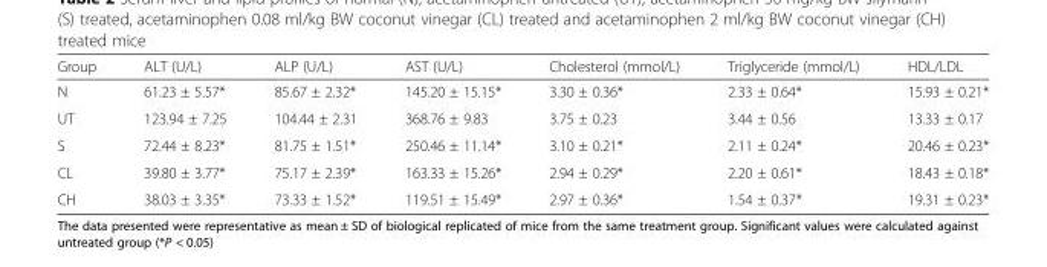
<table><thead><tr><td>Group</td><td>ALT (U/L)</td><td>ALP (U/L)</td><td>AST (U/L)</td><td>Cholesterol (mmol/L)</td><td>Triglyceride (mmol/L)</td><td>HDL/LDL</td></tr></thead><tbody><tr><td>N</td><td>61.23 ± 5.57*</td><td>85.67 ± 2.32*</td><td>145.20 ± 15.15*</td><td>3.30 ± 0.36*</td><td>2.33 ± 0.64*</td><td>15.93 ± 0.21*</td></tr><tr><td>UT</td><td>123.94 ± 7.25</td><td>104.44 ± 2.31</td><td>368.76 ± 9.83</td><td>3.75 ± 0.23</td><td>3.44 ± 0.56</td><td>13.33 ± 0.17</td></tr><tr><td>S</td><td>72.44 ± 8.23*</td><td>81.75 ± 1.51*</td><td>250.46 ± 11.14*</td><td>3.10 ± 0.21*</td><td>2.11 ± 0.24*</td><td>20.46 ± 0.23*</td></tr><tr><td>CL</td><td>39.80 ± 3.77*</td><td>75.17 ± 2.39*</td><td>163.33 ± 15.26*</td><td>2.94 ± 0.29*</td><td>2.20 ± 0.61*</td><td>18.43 ± 0.18*</td></tr><tr><td>CH</td><td>38.03 ± 3.35*</td><td>73.33 ± 1.52*</td><td>119.51 ± 15.49*</td><td>2.97 ± 0.36*</td><td>1.54 ± 0.37*</td><td>19.31 ± 0.23*</td></tr></tbody></table>